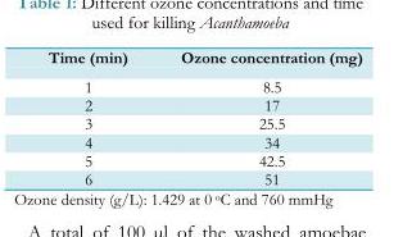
<table><thead><tr><td>Time (min)</td><td>Ozone concentration (mg)</td></tr></thead><tbody><tr><td>1</td><td>8.5</td></tr><tr><td>2</td><td>17</td></tr><tr><td>3</td><td>25.5</td></tr><tr><td>4</td><td>34</td></tr><tr><td>5</td><td>42.5</td></tr><tr><td>6</td><td>51</td></tr></tbody></table>